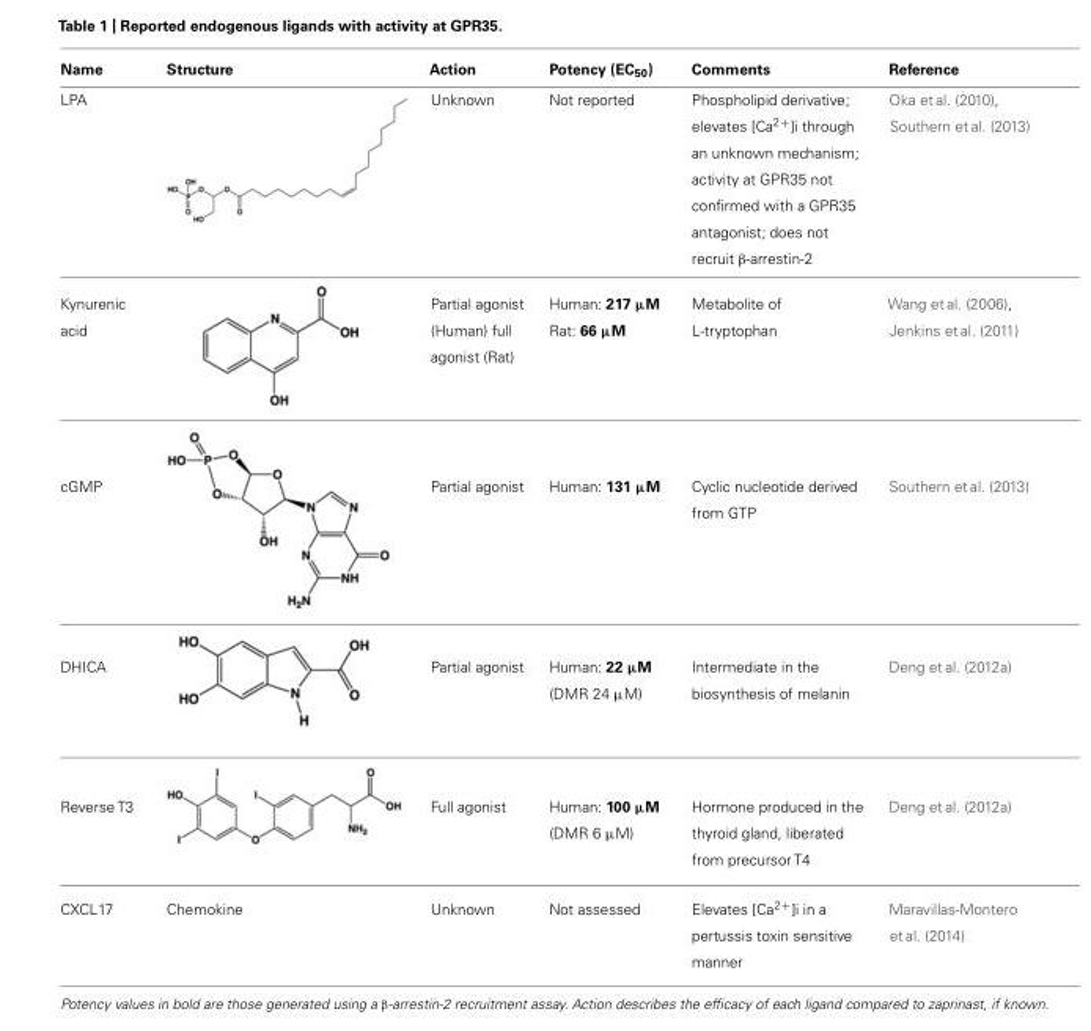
<table><thead><tr><td>Name</td><td>Structure</td><td>Action</td><td>Potency (EC<sub>50</sub>)</td><td>Comments</td><td>Reference</td></tr></thead><tbody><tr><td>LPA</td><td></td><td>Unknown</td><td>Not reported</td><td>Phospholipid derivative; elevates [Ca<sup>2+</sup>]i through an unknown mechanism; activity at GPR35 not confirmed with a GPR35 antagonist; does not recruit β-arrestin-2</td><td>Oka et al. (2010), Southern et al. (2013)</td></tr><tr><td>Kynurenic acid</td><td></td><td>Partial agonist (Human) full agonist (Rat)</td><td>Human: 217 μM Rat: 66 μM</td><td>Metabolite of L-tryptophan</td><td>Wang et al. (2006), Jenkins et al. (2011)</td></tr><tr><td>cGMP</td><td></td><td>Partial agonist</td><td>Human: 131 μM</td><td>Cyclic nucleotide derived from GTP</td><td>Southern et al. (2013)</td></tr><tr><td>DHICA</td><td></td><td>Partial agonist</td><td>Human: 22 μM (DMR 24 μM)</td><td>Intermediate in the biosynthesis of melanin</td><td>Deng et al. (2012a)</td></tr><tr><td>Reverse T3</td><td></td><td>Full agonist</td><td>Human: 100 μM (DMR 6 μM)</td><td>Hormone produced in the thyroid gland, liberated from precursor T4</td><td>Deng et al. (2012a)</td></tr><tr><td>CXCL17</td><td>Chemokine</td><td>Unknown</td><td>Not assessed</td><td>Elevates [Ca<sup>2+</sup>]i in a pertussis toxin sensitive manner</td><td>Maravillas-Montero et al. (2014)</td></tr></tbody></table>